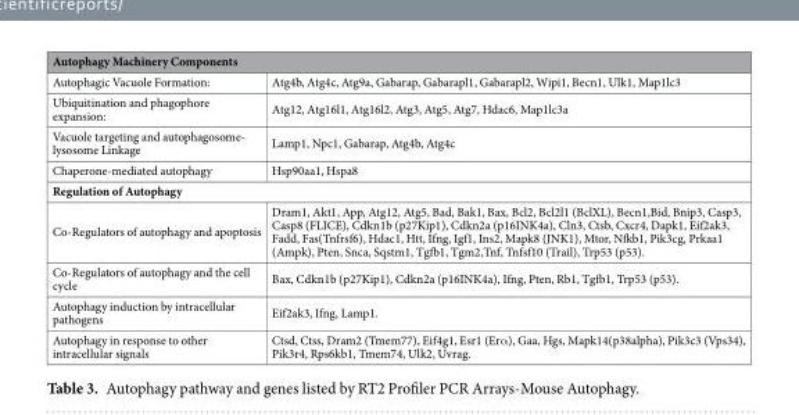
<table><thead><tr><td colspan="2">Autophagy Machinery Components</td></tr><tr><td>Autophagic Vacuole Formation:</td><td>Atg4b, Atg4c, Atg9a, Gabarap, Gabarapl1, Gabarapl2, Wipi1, Becn1, Ulk1, Map1lc3</td></tr></thead><tbody><tr><td>Ubiquitination and phagophore expansion:</td><td>Atg12, Atg16l1, Atg16l2, Atg3, Atg5, Atg7, Hdac6, Map1lc3a</td></tr><tr><td>Vacuole targeting and autophagosome- lysosome Linkage</td><td>Lamp1, Npc1, Gabarap, Atg4b, Atg4c</td></tr><tr><td>Chaperone-mediated autophagy</td><td>Hsp90aa1, Hspa8</td></tr><tr><td colspan="2">Regulation of Autophagy</td></tr><tr><td>Co-Regulators of autophagy and apoptosis</td><td>Dram1, Akt1, App, Atg12, Atg5, Bad, Bak1, Bax, Bcl2, Bcl2l1 (BclXL), Becn1,Bid, Bnip3, Casp3, Casp8 (FLICE), Cdkn1b (p27Kip1), Cdkn2a (p16INK4a), Cln3, Ctsb, Cxcr4, Dapk1, Eif2ak3, Fadd, Fas(Tnfrsf6), Hdac1, Htt, Ifng, Igf1, Ins2, Mapk8 (JNK1), Mtor, Nfkb1, Pik3cg, Prkaa1 (Ampk), Pten, Snca, Sqstm1, Tgfb1, Tgm2,Tnf, Tnfsf10 (Trail), Trp53 (p53).</td></tr><tr><td>Co-Regulators of autophagy and the cell cycle</td><td>Bax, Cdkn1b (p27Kip1), Cdkn2a (p16INK4a), Ifng, Pten, Rb1, Tgfb1, Trp53 (p53).</td></tr><tr><td>Autophagy induction by intracellular pathogens</td><td>Eif2ak3, Ifng, Lamp1.</td></tr><tr><td>Autophagy in response to other intracellular signals</td><td>Ctsd, Ctss, Dram2 (Tmem77), Eif4g1, Esr1 (Erα), Gaa, Hgs, Mapk14(p38alpha), Pik3c3 (Vps34), Pik3r4, Rps6kb1, Tmem74, Ulk2, Uvrag.</td></tr></tbody></table>